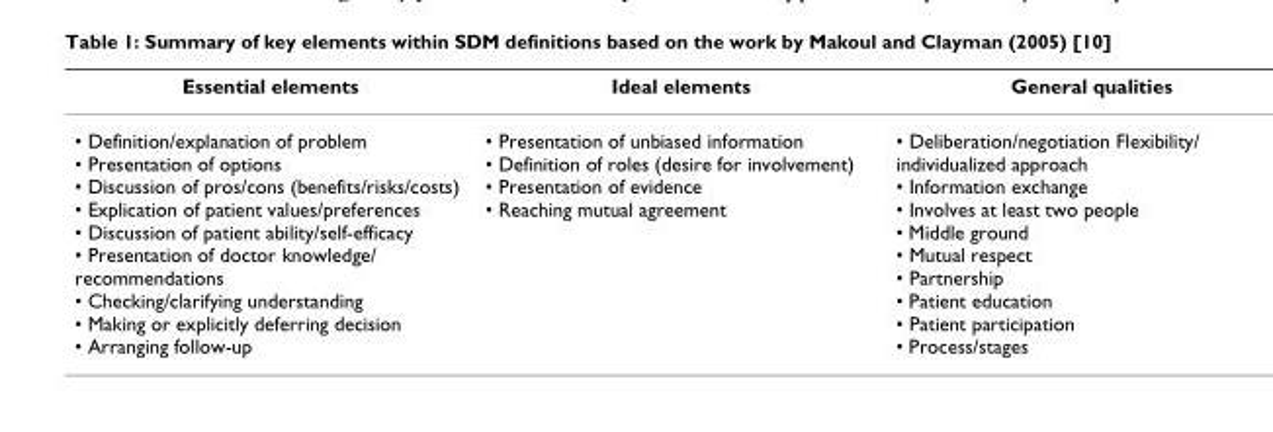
<table><thead><tr><td>Essential elements</td><td>Ideal elements</td><td>General qualities</td></tr></thead><tbody><tr><td>• Definition/explanation of problem • Presentation of options • Discussion of pros/cons (benefits/risks/costs) • Explication of patient values/preferences • Discussion of patient ability/self-efficacy • Presentation of doctor knowledge/ recommendations • Checking/clarifying understanding • Making or explicitly deferring decision • Arranging follow-up</td><td>• Presentation of unbiased information • Definition of roles (desire for involvement) • Presentation of evidence • Reaching mutual agreement</td><td>• Deliberation/negotiation Flexibility/ individualized approach • Information exchange • Involves at least two people • Middle ground • Mutual respect • Partnership • Patient education • Patient participation • Process/stages</td></tr></tbody></table>